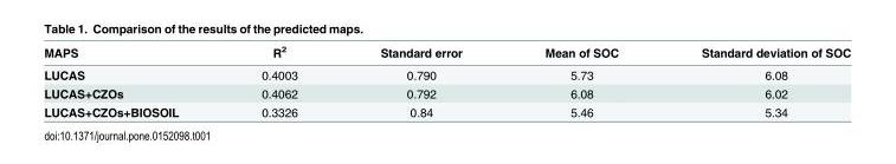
<table><thead><tr><td>MAPS</td><td>R<sup>2</sup></td><td>Standard error</td><td>Mean of SOC</td><td>Standard deviation of SOC</td></tr></thead><tbody><tr><td>LUCAS</td><td>0.4003</td><td>0.790</td><td>5.73</td><td>6.08</td></tr><tr><td>LUCAS+CZOs</td><td>0.4062</td><td>0.792</td><td>6.08</td><td>6.02</td></tr><tr><td>LUCAS+CZOs+BIOSOIL</td><td>0.3326</td><td>0.84</td><td>5.46</td><td>5.34</td></tr></tbody></table>